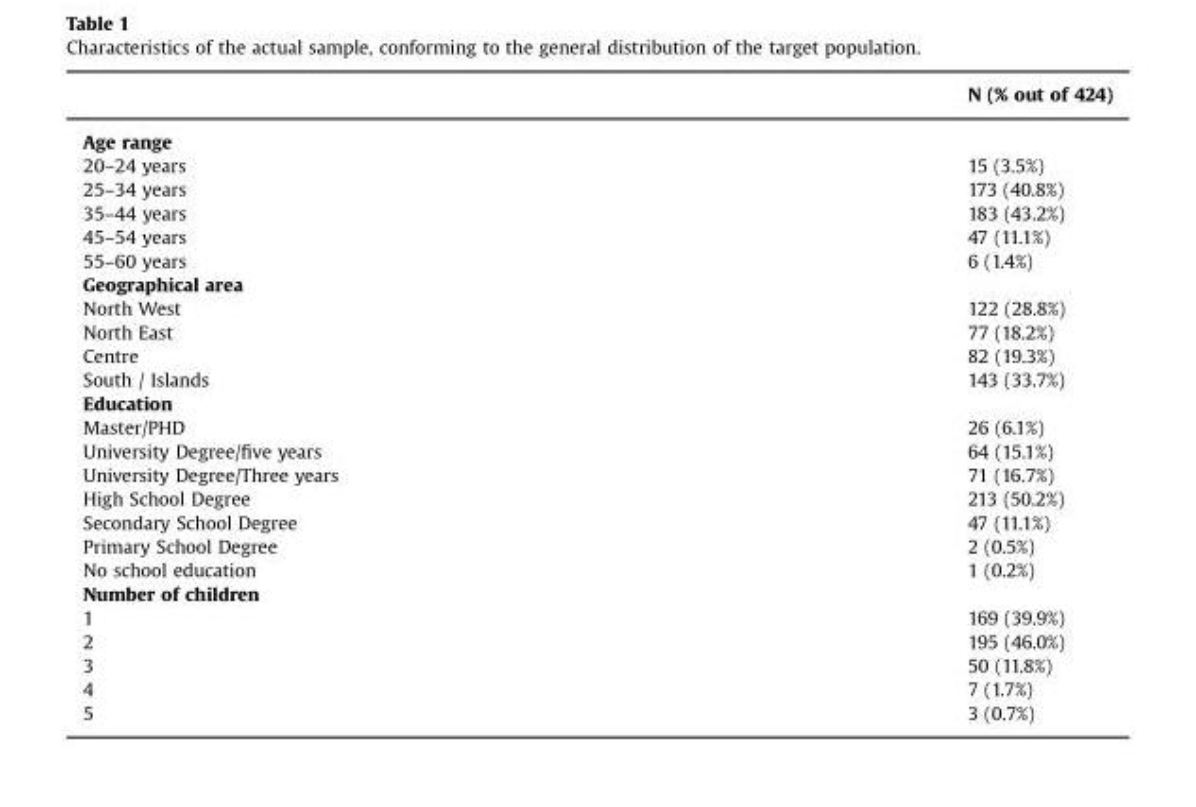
<table><thead><tr><td></td><td>N (% out of 424)</td></tr></thead><tbody><tr><td colspan="2">Age range</td></tr><tr><td>20–24 years</td><td>15 (3.5%)</td></tr><tr><td>25–34 years</td><td>173 (40.8%)</td></tr><tr><td>35–44 years</td><td>183 (43.2%)</td></tr><tr><td>45–54 years</td><td>47 (11.1%)</td></tr><tr><td>55–60 years</td><td>6 (1.4%)</td></tr><tr><td colspan="2">Geographical area</td></tr><tr><td>North West</td><td>122 (28.8%)</td></tr><tr><td>North East</td><td>77 (18.2%)</td></tr><tr><td>Centre</td><td>82 (19.3%)</td></tr><tr><td>South / Islands</td><td>143 (33.7%)</td></tr><tr><td colspan="2">Education</td></tr><tr><td>Master/PHD</td><td>26 (6.1%)</td></tr><tr><td>University Degree/five years</td><td>64 (15.1%)</td></tr><tr><td>University Degree/Three years</td><td>71 (16.7%)</td></tr><tr><td>High School Degree</td><td>213 (50.2%)</td></tr><tr><td>Secondary School Degree</td><td>47 (11.1%)</td></tr><tr><td>Primary School Degree</td><td>2 (0.5%)</td></tr><tr><td>No school education</td><td>1 (0.2%)</td></tr><tr><td colspan="2">Number of children</td></tr><tr><td>1</td><td>169 (39.9%)</td></tr><tr><td>2</td><td>195 (46.0%)</td></tr><tr><td>3</td><td>50 (11.8%)</td></tr><tr><td>4</td><td>7 (1.7%)</td></tr><tr><td>5</td><td>3 (0.7%)</td></tr></tbody></table>